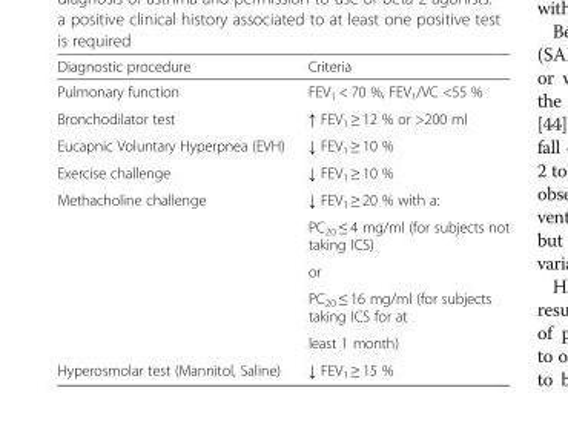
<table><thead><tr><td>Diagnostic procedure</td><td>Criteria</td></tr></thead><tbody><tr><td>Pulmonary function</td><td>FEV<sub>1</sub> &lt; 70 %, FEV<sub>1</sub>/VC &lt;55 %</td></tr><tr><td>Bronchodilator test</td><td>↑ FEV<sub>1</sub> ≥ 12 % or &gt;200 ml</td></tr><tr><td>Eucapnic Voluntary Hyperpnea (EVH)</td><td>↓ FEV<sub>1</sub> ≥ 10 %</td></tr><tr><td>Exercise challenge</td><td>↓ FEV<sub>1</sub> ≥ 10 %</td></tr><tr><td rowspan="5">Methacholine challenge</td><td>↓ FEV<sub>1</sub> ≥ 20 % with a:</td></tr><tr><td>PC<sub>20</sub> ≤ 4 mg/ml (for subjects not taking ICS)</td></tr><tr><td>or</td></tr><tr><td>PC<sub>20</sub> ≤ 16 mg/ml (for subjects taking ICS for at</td></tr><tr><td>least 1 month)</td></tr><tr><td>Hyperosmolar test (Mannitol, Saline)</td><td>↓ FEV<sub>1</sub> ≥ 15 %</td></tr></tbody></table>